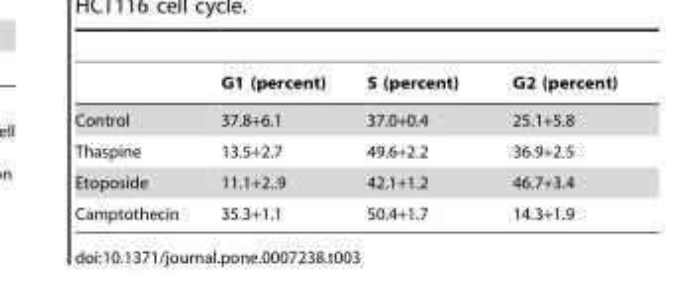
<table><thead><tr><td></td><td>G1 (percent)</td><td>S (percent)</td><td>G2 (percent)</td></tr></thead><tbody><tr><td>Control</td><td>37.8+6.1</td><td>37.0+0.4</td><td>25.1+5.8</td></tr><tr><td>Thaspine</td><td>13.5+2.7</td><td>49.6+2.2</td><td>36.9+2.5</td></tr><tr><td>Etoposide</td><td>11.1+2..9</td><td>42.1+1.2</td><td>46.7+3.4</td></tr><tr><td>Camptothecin</td><td>35.3+1.1</td><td>50.4+1.7</td><td>14.3+1.9</td></tr></tbody></table>